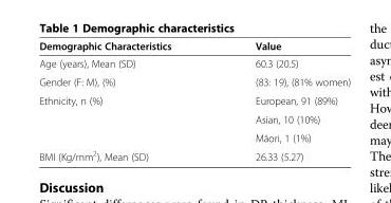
<table><thead><tr><td>Demographic Characteristics</td><td>Value</td></tr></thead><tbody><tr><td>Age (years), Mean (SD)</td><td>60.3 (20.5)</td></tr><tr><td>Gender (F: M), (%)</td><td>(83: 19), (81% women)</td></tr><tr><td rowspan="3">Ethnicity, n (%)</td><td>European, 91 (89%)</td></tr><tr><td>Asian, 10 (10%)</td></tr><tr><td>Māori, 1 (1%)</td></tr><tr><td>BMI (Kg/mm<sup>2</sup>), Mean (SD)</td><td>26.33 (5.27)</td></tr></tbody></table>